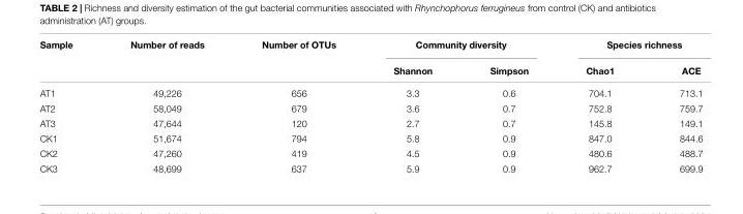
<table><thead><tr><td rowspan="2">Sample</td><td rowspan="2">Number of reads</td><td rowspan="2">Number of OTUs</td><td colspan="2">Community diversity</td><td colspan="2">Species richness</td></tr><tr><td>Shannon</td><td>Simpson</td><td>Chao1</td><td>ACE</td></tr></thead><tbody><tr><td>AT1</td><td>49,226</td><td>656</td><td>3.3</td><td>0.6</td><td>704.1</td><td>713.1</td></tr><tr><td>AT2</td><td>58,049</td><td>679</td><td>3.6</td><td>0.7</td><td>752.8</td><td>759.7</td></tr><tr><td>AT3</td><td>47,644</td><td>120</td><td>2.7</td><td>0.7</td><td>145.8</td><td>149.1</td></tr><tr><td>CK1</td><td>51,674</td><td>794</td><td>5.8</td><td>0.9</td><td>847.0</td><td>844.6</td></tr><tr><td>CK2</td><td>47,260</td><td>419</td><td>4.5</td><td>0.9</td><td>480.6</td><td>488.7</td></tr><tr><td>CK3</td><td>48,699</td><td>637</td><td>5.9</td><td>0.9</td><td>962.7</td><td>699.9</td></tr></tbody></table>